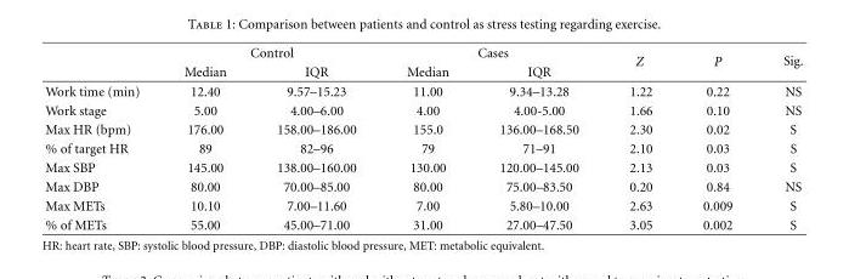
<table><thead><tr><td rowspan="2"></td><td colspan="2">Control</td><td colspan="2">Cases</td><td rowspan="2">Z</td><td rowspan="2">P</td><td rowspan="2">Sig.</td></tr><tr><td>Median</td><td>IQR</td><td>Median</td><td>IQR</td></tr></thead><tbody><tr><td>Work time (min)</td><td>12.40</td><td>9.57–15.23</td><td>11.00</td><td>9.34–13.28</td><td>1.22</td><td>0.22</td><td>NS</td></tr><tr><td>Work stage</td><td>5.00</td><td>4.00–6.00</td><td>4.00</td><td>4.00-5.00</td><td>1.66</td><td>0.10</td><td>NS</td></tr><tr><td>Max HR (bpm)</td><td>176.00</td><td>158.00–186.00</td><td>155.0</td><td>136.00–168.50</td><td>2.30</td><td>0.02</td><td>S</td></tr><tr><td>% of target HR</td><td>89</td><td>82–96</td><td>79</td><td>71–91</td><td>2.10</td><td>0.03</td><td>S</td></tr><tr><td>Max SBP</td><td>145.00</td><td>138.00–160.00</td><td>130.00</td><td>120.00–145.00</td><td>2.13</td><td>0.03</td><td>S</td></tr><tr><td>Max DBP</td><td>80.00</td><td>70.00–85.00</td><td>80.00</td><td>75.00–83.50</td><td>0.20</td><td>0.84</td><td>NS</td></tr><tr><td>Max METs</td><td>10.10</td><td>7.00–11.60</td><td>7.00</td><td>5.80–10.00</td><td>2.63</td><td>0.009</td><td>S</td></tr><tr><td>% of METs</td><td>55.00</td><td>45.00–71.00</td><td>31.00</td><td>27.00–47.50</td><td>3.05</td><td>0.002</td><td>S</td></tr></tbody></table>